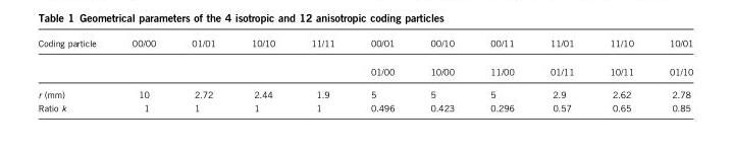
<table><thead><tr><td rowspan="2">Coding particle</td><td rowspan="2">00/00</td><td rowspan="2">01/01</td><td rowspan="2">10/10</td><td rowspan="2">11/11</td><td rowspan="2">00/01 01/00</td><td rowspan="2">00/10 10/00</td><td rowspan="2">00/11 11/00</td><td rowspan="2">11/01 01/11</td><td rowspan="2">11/10 10/11</td><td rowspan="2">10/01 01/10</td></tr><tr></tr></thead><tbody><tr><td>r (mm)</td><td>10</td><td>2.72</td><td>2.44</td><td>1.9</td><td>5</td><td>5</td><td>5</td><td>2.9</td><td>2.62</td><td>2.78</td></tr><tr><td>Ratio k</td><td>1</td><td>1</td><td>1</td><td>1</td><td>0.496</td><td>0.423</td><td>0.296</td><td>0.57</td><td>0.65</td><td>0.85</td></tr></tbody></table>